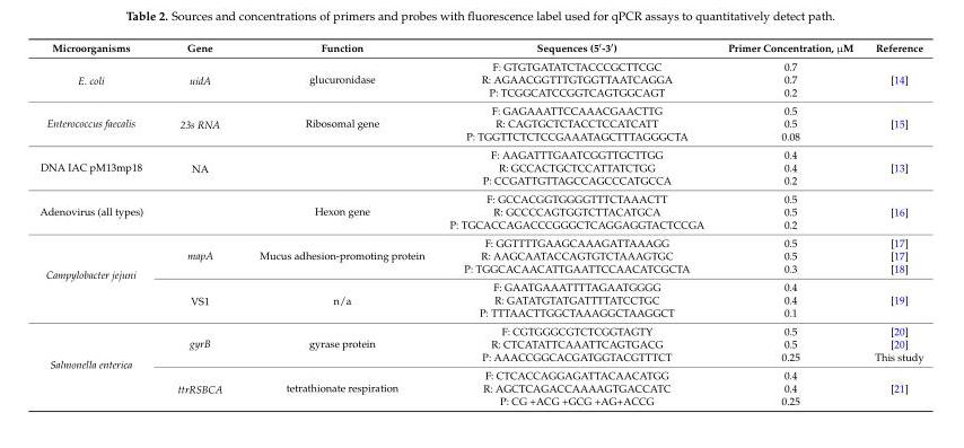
<table><thead><tr><td>Microorganisms</td><td>Gene</td><td>Function</td><td>Sequences (5′-3′)</td><td>Primer Concentration, µM</td><td>Reference</td></tr></thead><tbody><tr><td rowspan="3">E. coli</td><td rowspan="3">uidA</td><td rowspan="3">glucuronidase</td><td>F: GTGTGATATCTACCCGCTTCGC</td><td>0.7</td><td rowspan="3">[14]</td></tr><tr><td>R: AGAACGGTTTGTGGTTAATCAGGA</td><td>0.7</td></tr><tr><td>P: TCGGCATCCGGTCAGTGGCAGT</td><td>0.2</td></tr><tr><td rowspan="3">Enterococcus faecalis</td><td rowspan="3">23s RNA</td><td rowspan="3">Ribosomal gene</td><td>F: GAGAAATTCCAAACGAACTTG</td><td>0.5</td><td rowspan="3">[15]</td></tr><tr><td>R: CAGTGCTCTACCTCCATCATT</td><td>0.5</td></tr><tr><td>P: TGGTTCTCTCCGAAATAGCTTTAGGGCTA</td><td>0.08</td></tr><tr><td rowspan="3">DNA IAC pM13mp18</td><td rowspan="3">NA</td><td rowspan="3"></td><td>F: AAGATTTGAATCGGTTGCTTGG</td><td>0.4</td><td rowspan="3">[13]</td></tr><tr><td>R: GCCACTGCTCCATTATCTGG</td><td>0.4</td></tr><tr><td>P: CCGATTGTTAGCCAGCCCATGCCA</td><td>0.2</td></tr><tr><td rowspan="3">Adenovirus (all types)</td><td rowspan="3"></td><td rowspan="3">Hexon gene</td><td>F: GCCACGGTGGGGTTTCTAAACTT</td><td>0.5</td><td rowspan="3">[16]</td></tr><tr><td>R: GCCCCAGTGGTCTTACATGCA</td><td>0.5</td></tr><tr><td>P: TGCACCAGACCCGGGCTCAGGAGGTACTCCGA</td><td>0.2</td></tr><tr><td rowspan="6">Campylobacter jejuni</td><td rowspan="3">mapA</td><td rowspan="3">Mucus adhesion-promoting protein</td><td>F: GGTTTTGAAGCAAAGATTAAAGG</td><td>0.5</td><td>[17]</td></tr><tr><td>R: AAGCAATACCAGTGTCTAAAGTGC</td><td>0.5</td><td>[17]</td></tr><tr><td>P: TGGCACAACATTGAATTCCAACATCGCTA</td><td>0.3</td><td>[18]</td></tr><tr><td rowspan="3">VS1</td><td rowspan="3">n/a</td><td>F: GAATGAAATTTTAGAATGGGG</td><td>0.4</td><td rowspan="3">[19]</td></tr><tr><td>R: GATATGTATGATTTTATCCTGC</td><td>0.4</td></tr><tr><td>P: TTTAACTTGGCTAAAGGCTAAGGCT</td><td>0.1</td></tr><tr><td rowspan="6">Salmonella enterica</td><td rowspan="3">gyrB</td><td rowspan="3">gyrase protein</td><td>F: CGTGGGCGTCTCGGTAGTY</td><td>0.5</td><td>[20]</td></tr><tr><td>R: CTCATATTCAAATTCAGTGACG</td><td>0.5</td><td>[20]</td></tr><tr><td>P: AAACCGGCACGATGGTACGTTTCT</td><td>0.25</td><td>This study</td></tr><tr><td rowspan="3">ttrRSBCA</td><td rowspan="3">tetrathionate respiration</td><td>F: CTCACCAGGAGATTACAACATGG</td><td>0.4</td><td rowspan="3">[21]</td></tr><tr><td>R: AGCTCAGACCAAAAGTGACCATC</td><td>0.4</td></tr><tr><td>P: CG +ACG +GCG +AG+ACCG</td><td>0.25</td></tr></tbody></table>